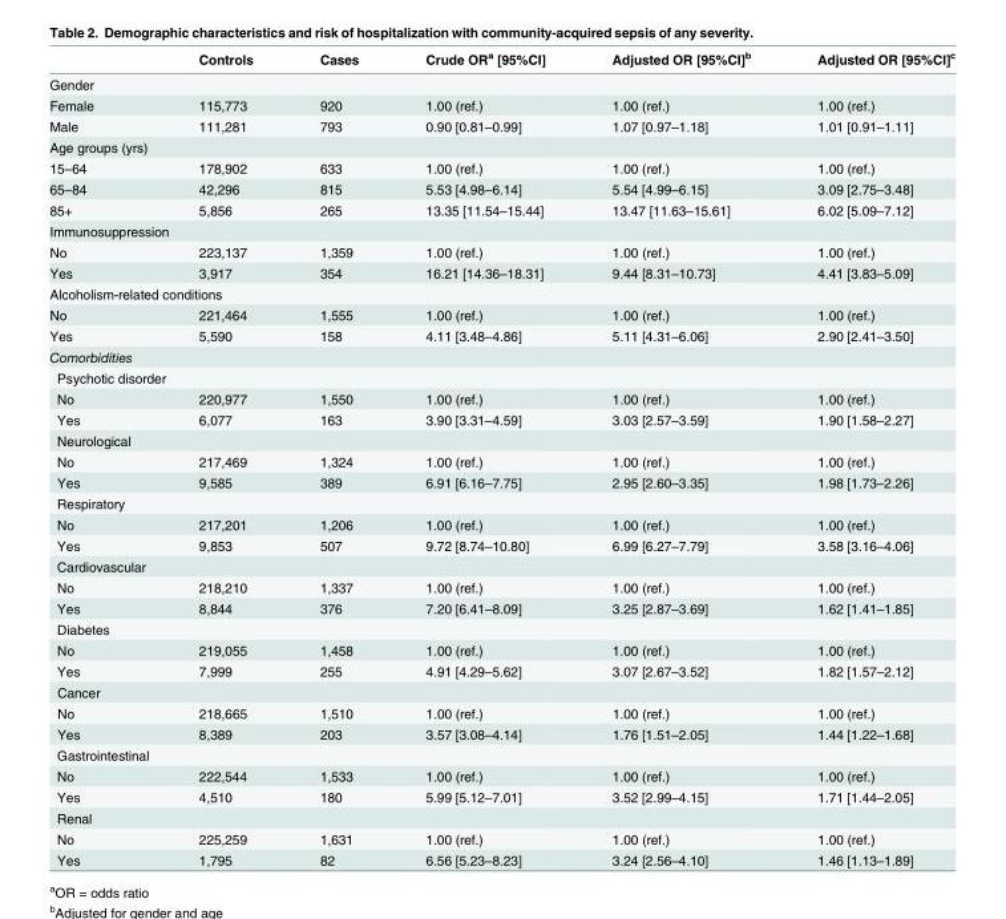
<table><thead><tr><td></td><td>Controls</td><td>Cases</td><td>Crude OR<sup>a</sup> [95%CI]</td><td>Adjusted OR [95%CI]<sup>b</sup></td><td>Adjusted OR [95%CI]<sup>c</sup></td></tr></thead><tbody><tr><td colspan="6">Gender</td></tr><tr><td>Female</td><td>115,773</td><td>920</td><td>1.00 (ref.)</td><td>1.00 (ref.)</td><td>1.00 (ref.)</td></tr><tr><td>Male</td><td>111,281</td><td>793</td><td>0.90 [0.81–0.99]</td><td>1.07 [0.97–1.18]</td><td>1.01 [0.91–1.11]</td></tr><tr><td colspan="6">Age groups (yrs)</td></tr><tr><td>15–64</td><td>178,902</td><td>633</td><td>1.00 (ref.)</td><td>1.00 (ref.)</td><td>1.00 (ref.)</td></tr><tr><td>65–84</td><td>42,296</td><td>815</td><td>5.53 [4.98–6.14]</td><td>5.54 [4.99–6.15]</td><td>3.09 [2.75–3.48]</td></tr><tr><td>85+</td><td>5,856</td><td>265</td><td>13.35 [11.54–15.44]</td><td>13.47 [11.63–15.61]</td><td>6.02 [5.09–7.12]</td></tr><tr><td colspan="6">Immunosuppression</td></tr><tr><td>No</td><td>223,137</td><td>1,359</td><td>1.00 (ref.)</td><td>1.00 (ref.)</td><td>1.00 (ref.)</td></tr><tr><td>Yes</td><td>3,917</td><td>354</td><td>16.21 [14.36–18.31]</td><td>9.44 [8.31–10.73]</td><td>4.41 [3.83–5.09]</td></tr><tr><td colspan="6">Alcoholism-related conditions</td></tr><tr><td>No</td><td>221,464</td><td>1,555</td><td>1.00 (ref.)</td><td>1.00 (ref.)</td><td>1.00 (ref.)</td></tr><tr><td>Yes</td><td>5,590</td><td>158</td><td>4.11 [3.48–4.86]</td><td>5.11 [4.31–6.06]</td><td>2.90 [2.41–3.50]</td></tr><tr><td colspan="6">Comorbidities</td></tr><tr><td colspan="6">Psychotic disorder</td></tr><tr><td>No</td><td>220,977</td><td>1,550</td><td>1.00 (ref.)</td><td>1.00 (ref.)</td><td>1.00 (ref.)</td></tr><tr><td>Yes</td><td>6,077</td><td>163</td><td>3.90 [3.31–4.59]</td><td>3.03 [2.57–3.59]</td><td>1.90 [1.58–2.27]</td></tr><tr><td colspan="6">Neurological</td></tr><tr><td>No</td><td>217,469</td><td>1,324</td><td>1.00 (ref.)</td><td>1.00 (ref.)</td><td>1.00 (ref.)</td></tr><tr><td>Yes</td><td>9,585</td><td>389</td><td>6.91 [6.16–7.75]</td><td>2.95 [2.60–3.35]</td><td>1.98 [1.73–2.26]</td></tr><tr><td colspan="6">Respiratory</td></tr><tr><td>No</td><td>217,201</td><td>1,206</td><td>1.00 (ref.)</td><td>1.00 (ref.)</td><td>1.00 (ref.)</td></tr><tr><td>Yes</td><td>9,853</td><td>507</td><td>9.72 [8.74–10.80]</td><td>6.99 [6.27–7.79]</td><td>3.58 [3.16–4.06]</td></tr><tr><td colspan="6">Cardiovascular</td></tr><tr><td>No</td><td>218,210</td><td>1,337</td><td>1.00 (ref.)</td><td>1.00 (ref.)</td><td>1.00 (ref.)</td></tr><tr><td>Yes</td><td>8,844</td><td>376</td><td>7.20 [6.41–8.09]</td><td>3.25 [2.87–3.69]</td><td>1.62 [1.41–1.85]</td></tr><tr><td colspan="6">Diabetes</td></tr><tr><td>No</td><td>219,055</td><td>1,458</td><td>1.00 (ref.)</td><td>1.00 (ref.)</td><td>1.00 (ref.)</td></tr><tr><td>Yes</td><td>7,999</td><td>255</td><td>4.91 [4.29–5.62]</td><td>3.07 [2.67–3.52]</td><td>1.82 [1.57–2.12]</td></tr><tr><td colspan="6">Cancer</td></tr><tr><td>No</td><td>218,665</td><td>1,510</td><td>1.00 (ref.)</td><td>1.00 (ref.)</td><td>1.00 (ref.)</td></tr><tr><td>Yes</td><td>8,389</td><td>203</td><td>3.57 [3.08–4.14]</td><td>1.76 [1.51–2.05]</td><td>1.44 [1.22–1.68]</td></tr><tr><td colspan="6">Gastrointestinal</td></tr><tr><td>No</td><td>222,544</td><td>1,533</td><td>1.00 (ref.)</td><td>1.00 (ref.)</td><td>1.00 (ref.)</td></tr><tr><td>Yes</td><td>4,510</td><td>180</td><td>5.99 [5.12–7.01]</td><td>3.52 [2.99–4.15]</td><td>1.71 [1.44–2.05]</td></tr><tr><td colspan="6">Renal</td></tr><tr><td>No</td><td>225,259</td><td>1,631</td><td>1.00 (ref.)</td><td>1.00 (ref.)</td><td>1.00 (ref.)</td></tr><tr><td>Yes</td><td>1,795</td><td>82</td><td>6.56 [5.23–8.23]</td><td>3.24 [2.56–4.10]</td><td>1.46 [1.13–1.89]</td></tr></tbody></table>